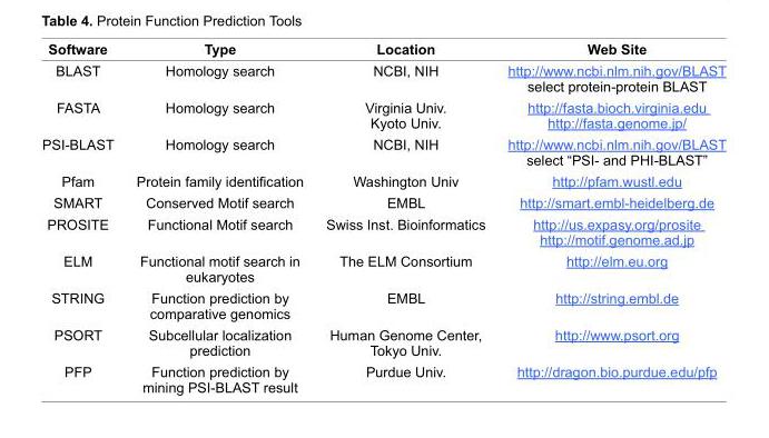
<table><thead><tr><td>Software</td><td>Type</td><td>Location</td><td>Web Site</td></tr></thead><tbody><tr><td>BLAST</td><td>Homology search</td><td>NCBI, NIH</td><td>http://www.ncbi.nlm.nih.gov/BLAST select protein-protein BLAST</td></tr><tr><td>FASTA</td><td>Homology search</td><td>Virginia Univ. Kyoto Univ.</td><td>http://fasta.bioch.virginia.edu http://fasta.genome.jp/</td></tr><tr><td>PSI-BLAST</td><td>Homology search</td><td>NCBI, NIH</td><td>http://www.ncbi.nlm.nih.gov/BLAST select “PSI- and PHI-BLAST”</td></tr><tr><td>Pfam</td><td>Protein family identifi cation</td><td>Washington Univ</td><td>http://pfam.wustl.edu</td></tr><tr><td>SMART</td><td>Conserved Motif search</td><td>EMBL</td><td>http://smart.embl-heidelberg.de</td></tr><tr><td>PROSITE</td><td>Functional Motif search</td><td>Swiss Inst. Bioinformatics</td><td>http://us.expasy.org/prosite http://motif.genome.ad.jp</td></tr><tr><td>ELM</td><td>Functional motif search in eukaryotes</td><td>The ELM Consortium</td><td>http://elm.eu.org</td></tr><tr><td>STRING</td><td>Function prediction by comparative genomics</td><td>EMBL</td><td>http://string.embl.de</td></tr><tr><td>PSORT</td><td>Subcellular localization prediction</td><td>Human Genome Center, Tokyo Univ.</td><td>http://www.psort.org</td></tr><tr><td>PFP</td><td>Function prediction by mining PSI-BLAST result</td><td>Purdue Univ.</td><td>http://dragon.bio.purdue.edu/pfp</td></tr></tbody></table>